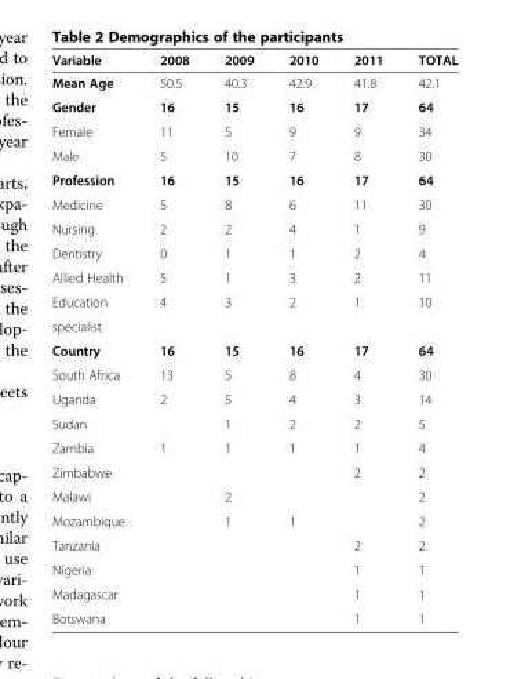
<table><thead><tr><td>Variable</td><td>2008</td><td>2009</td><td>2010</td><td>2011</td><td>TOTAL</td></tr></thead><tbody><tr><td>Mean Age</td><td>50.5</td><td>40.3</td><td>42.9</td><td>41.8</td><td>42.1</td></tr><tr><td>Gender</td><td>16</td><td>15</td><td>16</td><td>17</td><td>64</td></tr><tr><td>Female</td><td>11</td><td>5</td><td>9</td><td>9</td><td>34</td></tr><tr><td>Male</td><td>5</td><td>10</td><td>7</td><td>8</td><td>30</td></tr><tr><td>Profession</td><td>16</td><td>15</td><td>16</td><td>17</td><td>64</td></tr><tr><td>Medicine</td><td>5</td><td>8</td><td>6</td><td>11</td><td>30</td></tr><tr><td>Nursing</td><td>2</td><td>2</td><td>4</td><td>1</td><td>9</td></tr><tr><td>Dentistry</td><td>0</td><td>1</td><td>1</td><td>2</td><td>4</td></tr><tr><td>Allied Health</td><td>5</td><td>1</td><td>3</td><td>2</td><td>11</td></tr><tr><td>Education</td><td>4</td><td>3</td><td>2</td><td>1</td><td>10</td></tr><tr><td colspan="6">specialist</td></tr><tr><td>Country</td><td>16</td><td>15</td><td>16</td><td>17</td><td>64</td></tr><tr><td>South Africa</td><td>13</td><td>5</td><td>8</td><td>4</td><td>30</td></tr><tr><td>Uganda</td><td>2</td><td>5</td><td>4</td><td>3</td><td>14</td></tr><tr><td>Sudan</td><td></td><td>1</td><td>2</td><td>2</td><td>5</td></tr><tr><td>Zambia</td><td>1</td><td>1</td><td>1</td><td>1</td><td>4</td></tr><tr><td>Zimbabwe</td><td></td><td></td><td></td><td>2</td><td>2</td></tr><tr><td>Malawi</td><td></td><td>2</td><td></td><td></td><td>2</td></tr><tr><td>Mozambique</td><td></td><td>1</td><td>1</td><td></td><td>2</td></tr><tr><td>Tanzania</td><td></td><td></td><td></td><td>2</td><td>2</td></tr><tr><td>Nigeria</td><td></td><td></td><td></td><td>1</td><td>1</td></tr><tr><td>Madagascar</td><td></td><td></td><td></td><td>1</td><td>1</td></tr><tr><td>Botswana</td><td></td><td></td><td></td><td>1</td><td>1</td></tr></tbody></table>